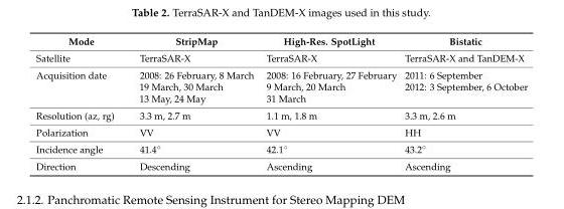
<table><thead><tr><td>Mode</td><td>StripMap</td><td>High-Res. SpotLight</td><td>Bistatic</td></tr></thead><tbody><tr><td>Satellite</td><td>TerraSAR-X</td><td>TerraSAR-X</td><td>TerraSAR-X and TanDEM-X</td></tr><tr><td>Acquisition date</td><td>2008: 26 February, 8 March 19 March, 30 March 13 May, 24 May</td><td>2008: 16 February, 27 February 9 March, 20 March 31 March</td><td>2011: 6 September 2012: 3 September, 6 October</td></tr><tr><td>Resolution (az, rg)</td><td>3.3 m, 2.7 m</td><td>1.1 m, 1.8 m</td><td>3.3 m, 2.6 m</td></tr><tr><td>Polarization</td><td>VV</td><td>VV</td><td>HH</td></tr><tr><td>Incidence angle</td><td>41.4◦</td><td>42.1◦</td><td>43.2◦</td></tr><tr><td>Direction</td><td>Descending</td><td>Ascending</td><td>Ascending</td></tr></tbody></table>